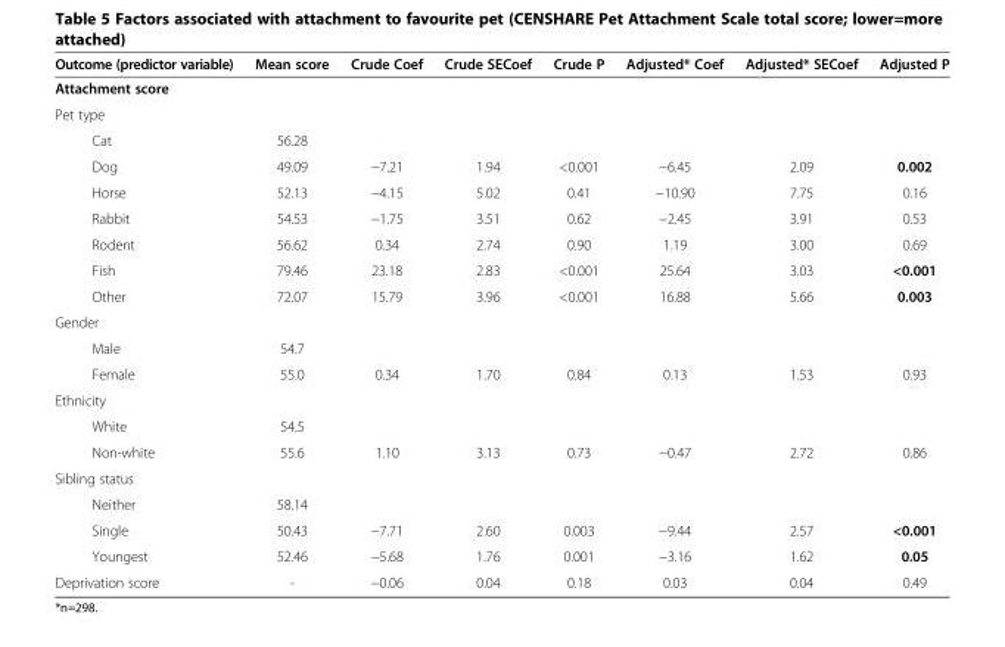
<table><thead><tr><td>Outcome (predictor variable)</td><td>Mean score</td><td>Crude Coef</td><td>Crude SECoef</td><td>Crude P</td><td>Adjusted* Coef</td><td>Adjusted* SECoef</td><td>Adjusted P</td></tr></thead><tbody><tr><td colspan="8">Attachment score</td></tr><tr><td colspan="8">Pet type</td></tr><tr><td>Cat</td><td>56.28</td><td></td><td></td><td></td><td></td><td></td><td></td></tr><tr><td>Dog</td><td>49.09</td><td>−7.21</td><td>1.94</td><td>&lt;0.001</td><td>−6.45</td><td>2.09</td><td>0.002</td></tr><tr><td>Horse</td><td>52.13</td><td>−4.15</td><td>5.02</td><td>0.41</td><td>−10.90</td><td>7.75</td><td>0.16</td></tr><tr><td>Rabbit</td><td>54.53</td><td>−1.75</td><td>3.51</td><td>0.62</td><td>−2.45</td><td>3.91</td><td>0.53</td></tr><tr><td>Rodent</td><td>56.62</td><td>0.34</td><td>2.74</td><td>0.90</td><td>1.19</td><td>3.00</td><td>0.69</td></tr><tr><td>Fish</td><td>79.46</td><td>23.18</td><td>2.83</td><td>&lt;0.001</td><td>25.64</td><td>3.03</td><td>&lt;0.001</td></tr><tr><td>Other</td><td>72.07</td><td>15.79</td><td>3.96</td><td>&lt;0.001</td><td>16.88</td><td>5.66</td><td>0.003</td></tr><tr><td colspan="8">Gender</td></tr><tr><td>Male</td><td>54.7</td><td></td><td></td><td></td><td></td><td></td><td></td></tr><tr><td>Female</td><td>55.0</td><td>0.34</td><td>1.70</td><td>0.84</td><td>0.13</td><td>1.53</td><td>0.93</td></tr><tr><td colspan="8">Ethnicity</td></tr><tr><td>White</td><td>54.5</td><td></td><td></td><td></td><td></td><td></td><td></td></tr><tr><td>Non-white</td><td>55.6</td><td>1.10</td><td>3.13</td><td>0.73</td><td>−0.47</td><td>2.72</td><td>0.86</td></tr><tr><td colspan="8">Sibling status</td></tr><tr><td>Neither</td><td>58.14</td><td></td><td></td><td></td><td></td><td></td><td></td></tr><tr><td>Single</td><td>50.43</td><td>−7.71</td><td>2.60</td><td>0.003</td><td>−9.44</td><td>2.57</td><td>&lt;0.001</td></tr><tr><td>Youngest</td><td>52.46</td><td>−5.68</td><td>1.76</td><td>0.001</td><td>−3.16</td><td>1.62</td><td>0.05</td></tr><tr><td>Deprivation score</td><td>-</td><td>−0.06</td><td>0.04</td><td>0.18</td><td>0.03</td><td>0.04</td><td>0.49</td></tr></tbody></table>